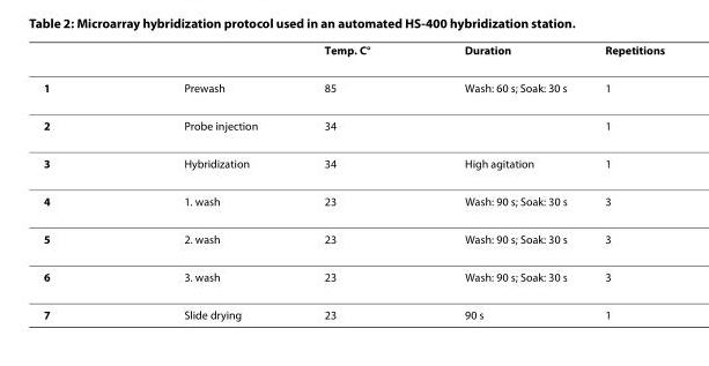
<table><thead><tr><td></td><td></td><td>Temp. C°</td><td>Duration</td><td>Repetitions</td></tr></thead><tbody><tr><td>1</td><td>Prewash</td><td>85</td><td>Wash: 60 s; Soak: 30 s</td><td>1</td></tr><tr><td>2</td><td>Probe injection</td><td>34</td><td></td><td>1</td></tr><tr><td>3</td><td>Hybridization</td><td>34</td><td>High agitation</td><td>1</td></tr><tr><td>4</td><td>1. wash</td><td>23</td><td>Wash: 90 s; Soak: 30 s</td><td>3</td></tr><tr><td>5</td><td>2. wash</td><td>23</td><td>Wash: 90 s; Soak: 30 s</td><td>3</td></tr><tr><td>6</td><td>3. wash</td><td>23</td><td>Wash: 90 s; Soak: 30 s</td><td>3</td></tr><tr><td>7</td><td>Slide drying</td><td>23</td><td>90 s</td><td>1</td></tr></tbody></table>